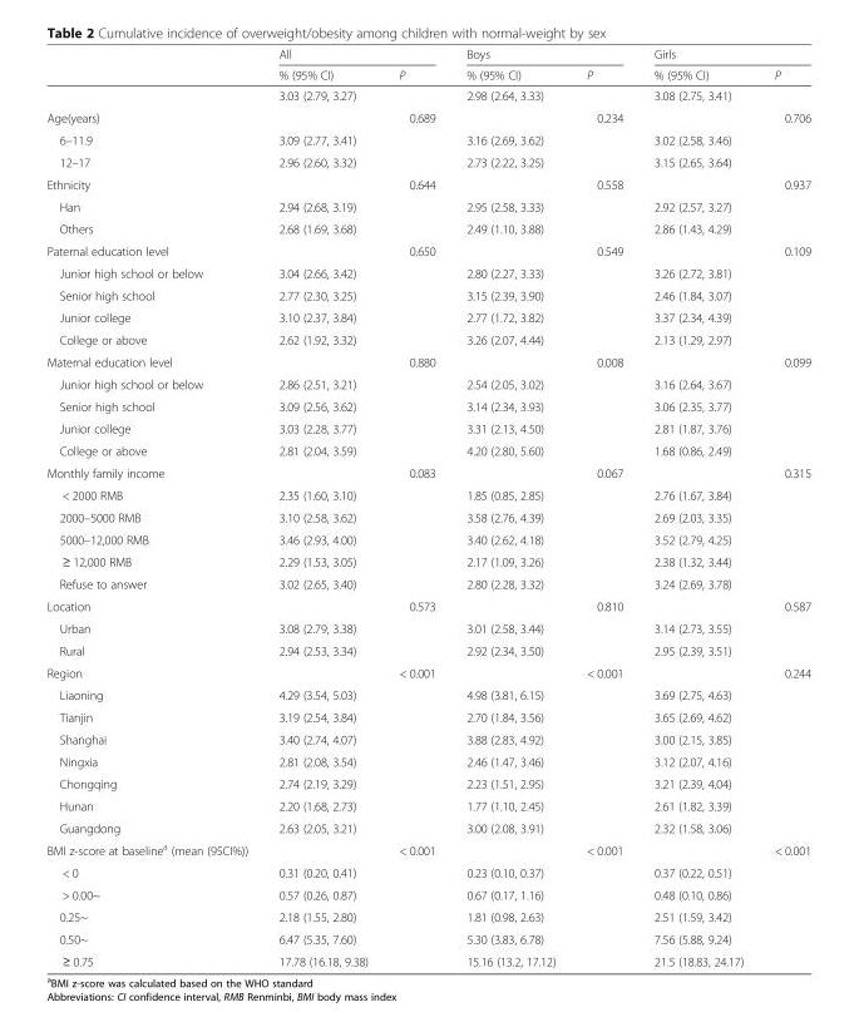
<table><thead><tr><td rowspan="2"></td><td colspan="2">All</td><td colspan="2">Boys</td><td colspan="2">Girls</td></tr><tr><td>% (95% CI)</td><td>P</td><td>% (95% CI)</td><td>P</td><td>% (95% CI)</td><td>P</td></tr></thead><tbody><tr><td></td><td>3.03 (2.79, 3.27)</td><td></td><td>2.98 (2.64, 3.33)</td><td></td><td>3.08 (2.75, 3.41)</td><td></td></tr><tr><td>Age(years)</td><td></td><td>0.689</td><td></td><td>0.234</td><td></td><td>0.706</td></tr><tr><td>6–11.9</td><td>3.09 (2.77, 3.41)</td><td></td><td>3.16 (2.69, 3.62)</td><td></td><td>3.02 (2.58, 3.46)</td><td></td></tr><tr><td>12–17</td><td>2.96 (2.60, 3.32)</td><td></td><td>2.73 (2.22, 3.25)</td><td></td><td>3.15 (2.65, 3.64)</td><td></td></tr><tr><td>Ethnicity</td><td></td><td>0.644</td><td></td><td>0.558</td><td></td><td>0.937</td></tr><tr><td>Han</td><td>2.94 (2.68, 3.19)</td><td></td><td>2.95 (2.58, 3.33)</td><td></td><td>2.92 (2.57, 3.27)</td><td></td></tr><tr><td>Others</td><td>2.68 (1.69, 3.68)</td><td></td><td>2.49 (1.10, 3.88)</td><td></td><td>2.86 (1.43, 4.29)</td><td></td></tr><tr><td>Paternal education level</td><td></td><td>0.650</td><td></td><td>0.549</td><td></td><td>0.109</td></tr><tr><td>Junior high school or below</td><td>3.04 (2.66, 3.42)</td><td></td><td>2.80 (2.27, 3.33)</td><td></td><td>3.26 (2.72, 3.81)</td><td></td></tr><tr><td>Senior high school</td><td>2.77 (2.30, 3.25)</td><td></td><td>3.15 (2.39, 3.90)</td><td></td><td>2.46 (1.84, 3.07)</td><td></td></tr><tr><td>Junior college</td><td>3.10 (2.37, 3.84)</td><td></td><td>2.77 (1.72, 3.82)</td><td></td><td>3.37 (2.34, 4.39)</td><td></td></tr><tr><td>College or above</td><td>2.62 (1.92, 3.32)</td><td></td><td>3.26 (2.07, 4.44)</td><td></td><td>2.13 (1.29, 2.97)</td><td></td></tr><tr><td>Maternal education level</td><td></td><td>0.880</td><td></td><td>0.008</td><td></td><td>0.099</td></tr><tr><td>Junior high school or below</td><td>2.86 (2.51, 3.21)</td><td></td><td>2.54 (2.05, 3.02)</td><td></td><td>3.16 (2.64, 3.67)</td><td></td></tr><tr><td>Senior high school</td><td>3.09 (2.56, 3.62)</td><td></td><td>3.14 (2.34, 3.93)</td><td></td><td>3.06 (2.35, 3.77)</td><td></td></tr><tr><td>Junior college</td><td>3.03 (2.28, 3.77)</td><td></td><td>3.31 (2.13, 4.50)</td><td></td><td>2.81 (1.87, 3.76)</td><td></td></tr><tr><td>College or above</td><td>2.81 (2.04, 3.59)</td><td></td><td>4.20 (2.80, 5.60)</td><td></td><td>1.68 (0.86, 2.49)</td><td></td></tr><tr><td>Monthly family income</td><td></td><td>0.083</td><td></td><td>0.067</td><td></td><td>0.315</td></tr><tr><td>&lt; 2000 RMB</td><td>2.35 (1.60, 3.10)</td><td></td><td>1.85 (0.85, 2.85)</td><td></td><td>2.76 (1.67, 3.84)</td><td></td></tr><tr><td>2000–5000 RMB</td><td>3.10 (2.58, 3.62)</td><td></td><td>3.58 (2.76, 4.39)</td><td></td><td>2.69 (2.03, 3.35)</td><td></td></tr><tr><td>5000–12,000 RMB</td><td>3.46 (2.93, 4.00)</td><td></td><td>3.40 (2.62, 4.18)</td><td></td><td>3.52 (2.79, 4.25)</td><td></td></tr><tr><td>≥ 12,000 RMB</td><td>2.29 (1.53, 3.05)</td><td></td><td>2.17 (1.09, 3.26)</td><td></td><td>2.38 (1.32, 3.44)</td><td></td></tr><tr><td>Refuse to answer</td><td>3.02 (2.65, 3.40)</td><td></td><td>2.80 (2.28, 3.32)</td><td></td><td>3.24 (2.69, 3.78)</td><td></td></tr><tr><td>Location</td><td></td><td>0.573</td><td></td><td>0.810</td><td></td><td>0.587</td></tr><tr><td>Urban</td><td>3.08 (2.79, 3.38)</td><td></td><td>3.01 (2.58, 3.44)</td><td></td><td>3.14 (2.73, 3.55)</td><td></td></tr><tr><td>Rural</td><td>2.94 (2.53, 3.34)</td><td></td><td>2.92 (2.34, 3.50)</td><td></td><td>2.95 (2.39, 3.51)</td><td></td></tr><tr><td>Region</td><td></td><td>&lt; 0.001</td><td></td><td>&lt; 0.001</td><td></td><td>0.244</td></tr><tr><td>Liaoning</td><td>4.29 (3.54, 5.03)</td><td></td><td>4.98 (3.81, 6.15)</td><td></td><td>3.69 (2.75, 4.63)</td><td></td></tr><tr><td>Tianjin</td><td>3.19 (2.54, 3.84)</td><td></td><td>2.70 (1.84, 3.56)</td><td></td><td>3.65 (2.69, 4.62)</td><td></td></tr><tr><td>Shanghai</td><td>3.40 (2.74, 4.07)</td><td></td><td>3.88 (2.83, 4.92)</td><td></td><td>3.00 (2.15, 3.85)</td><td></td></tr><tr><td>Ningxia</td><td>2.81 (2.08, 3.54)</td><td></td><td>2.46 (1.47, 3.46)</td><td></td><td>3.12 (2.07, 4.16)</td><td></td></tr><tr><td>Chongqing</td><td>2.74 (2.19, 3.29)</td><td></td><td>2.23 (1.51, 2.95)</td><td></td><td>3.21 (2.39, 4.04)</td><td></td></tr><tr><td>Hunan</td><td>2.20 (1.68, 2.73)</td><td></td><td>1.77 (1.10, 2.45)</td><td></td><td>2.61 (1.82, 3.39)</td><td></td></tr><tr><td>Guangdong</td><td>2.63 (2.05, 3.21)</td><td></td><td>3.00 (2.08, 3.91)</td><td></td><td>2.32 (1.58, 3.06)</td><td></td></tr><tr><td>BMI z-score at baseline<sup>a</sup> (mean (95CI%))</td><td></td><td>&lt; 0.001</td><td></td><td>&lt; 0.001</td><td></td><td>&lt; 0.001</td></tr><tr><td>&lt; 0</td><td>0.31 (0.20, 0.41)</td><td></td><td>0.23 (0.10, 0.37)</td><td></td><td>0.37 (0.22, 0.51)</td><td></td></tr><tr><td>&gt; 0.00~</td><td>0.57 (0.26, 0.87)</td><td></td><td>0.67 (0.17, 1.16)</td><td></td><td>0.48 (0.10, 0.86)</td><td></td></tr><tr><td>0.25~</td><td>2.18 (1.55, 2.80)</td><td></td><td>1.81 (0.98, 2.63)</td><td></td><td>2.51 (1.59, 3.42)</td><td></td></tr><tr><td>0.50~</td><td>6.47 (5.35, 7.60)</td><td></td><td>5.30 (3.83, 6.78)</td><td></td><td>7.56 (5.88, 9.24)</td><td></td></tr><tr><td>≥ 0.75</td><td>17.78 (16.18, 9.38)</td><td></td><td>15.16 (13.2, 17.12)</td><td></td><td>21.5 (18.83, 24.17)</td><td></td></tr></tbody></table>